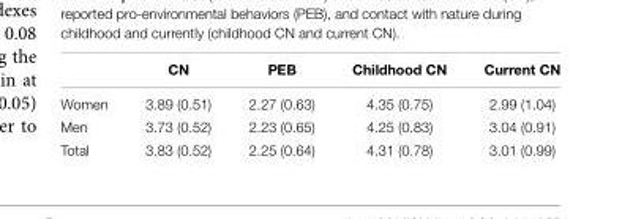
<table><thead><tr><td></td><td>CN</td><td>PEB</td><td>Childhood CN</td><td>Current CN</td></tr></thead><tbody><tr><td>Women</td><td>3.89 (0.51)</td><td>2.27 (0.63)</td><td>4.35 (0.75)</td><td>2.99 (1.04)</td></tr><tr><td>Men</td><td>3.73 (0.52)</td><td>2.23 (0.65)</td><td>4.25 (0.83)</td><td>3.04 (0.91)</td></tr><tr><td>Total</td><td>3.83 (0.52)</td><td>2.25 (0.64)</td><td>4.31 (0.78)</td><td>3.01 (0.99)</td></tr></tbody></table>